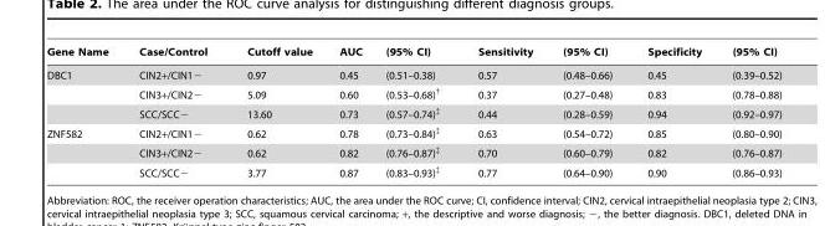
<table><thead><tr><td>Gene Name</td><td>Case/Control</td><td>Cutoff value</td><td>AUC</td><td>(95% CI)</td><td>Sensitivity</td><td>(95% CI)</td><td>Specificity</td><td>(95% CI)</td></tr></thead><tbody><tr><td rowspan="3">DBC1</td><td>CIN2+/CIN1−</td><td>0.97</td><td>0.45</td><td>(0.51–0.38)</td><td>0.57</td><td>(0.48–0.66)</td><td>0.45</td><td>(0.39–0.52)</td></tr><tr><td>CIN3+/CIN2−</td><td>5.09</td><td>0.60</td><td>(0.53–0.68)†</td><td>0.37</td><td>(0.27–0.48)</td><td>0.83</td><td>(0.78–0.88)</td></tr><tr><td>SCC/SCC−</td><td>13.60</td><td>0.73</td><td>(0.57–0.74)‡</td><td>0.44</td><td>(0.28–0.59)</td><td>0.94</td><td>(0.92–0.97)</td></tr><tr><td rowspan="3">ZNF582</td><td>CIN2+/CIN1−</td><td>0.62</td><td>0.78</td><td>(0.73–0.84)‡</td><td>0.63</td><td>(0.54–0.72)</td><td>0.85</td><td>(0.80–0.90)</td></tr><tr><td>CIN3+/CIN2−</td><td>0.62</td><td>0.82</td><td>(0.76–0.87)‡</td><td>0.70</td><td>(0.60–0.79)</td><td>0.82</td><td>(0.76–0.87)</td></tr><tr><td>SCC/SCC−</td><td>3.77</td><td>0.87</td><td>(0.83–0.93)‡</td><td>0.77</td><td>(0.64–0.90)</td><td>0.90</td><td>(0.86–0.93)</td></tr></tbody></table>